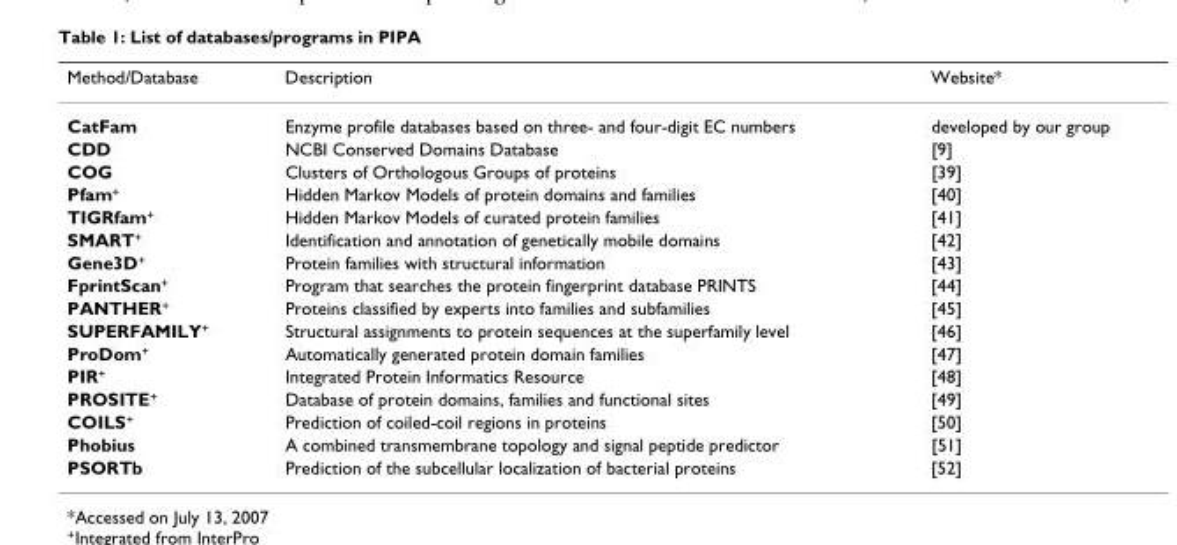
<table><thead><tr><td>Method/Database</td><td>Description</td><td>Website*</td></tr></thead><tbody><tr><td>CatFam</td><td>Enzyme profile databases based on three- and four-digit EC numbers</td><td>developed by our group</td></tr><tr><td>CDD</td><td>NCBI Conserved Domains Database</td><td>[9]</td></tr><tr><td>COG</td><td>Clusters of Orthologous Groups of proteins</td><td>[39]</td></tr><tr><td>Pfam<sup>+</sup></td><td>Hidden Markov Models of protein domains and families</td><td>[40]</td></tr><tr><td>TIGRfam<sup>+</sup></td><td>Hidden Markov Models of curated protein families</td><td>[41]</td></tr><tr><td>SMART<sup>+</sup></td><td>Identification and annotation of genetically mobile domains</td><td>[42]</td></tr><tr><td>Gene3D<sup>+</sup></td><td>Protein families with structural information</td><td>[43]</td></tr><tr><td>FprintScan<sup>+</sup></td><td>Program that searches the protein fingerprint database PRINTS</td><td>[44]</td></tr><tr><td>PANTHER<sup>+</sup></td><td>Proteins classified by experts into families and subfamilies</td><td>[45]</td></tr><tr><td>SUPERFAMILY<sup>+</sup></td><td>Structural assignments to protein sequences at the superfamily level</td><td>[46]</td></tr><tr><td>ProDom<sup>+</sup></td><td>Automatically generated protein domain families</td><td>[47]</td></tr><tr><td>PIR<sup>+</sup></td><td>Integrated Protein Informatics Resource</td><td>[48]</td></tr><tr><td>PROSITE<sup>+</sup></td><td>Database of protein domains, families and functional sites</td><td>[49]</td></tr><tr><td>COILS<sup>+</sup></td><td>Prediction of coiled-coil regions in proteins</td><td>[50]</td></tr><tr><td>Phobius</td><td>A combined transmembrane topology and signal peptide predictor</td><td>[51]</td></tr><tr><td>PSORTb</td><td>Prediction of the subcellular localization of bacterial proteins</td><td>[52]</td></tr></tbody></table>